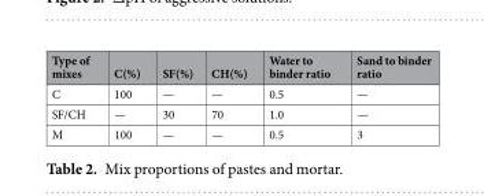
<table><thead><tr><td>Type of mixes</td><td>C(%)</td><td>SF(%)</td><td>CH(%)</td><td>Water to binder ratio</td><td>Sand to binder ratio</td></tr></thead><tbody><tr><td>C</td><td>100</td><td>—</td><td>—</td><td>0.5</td><td>—</td></tr><tr><td>SF/CH</td><td>—</td><td>30</td><td>70</td><td>1.0</td><td>—</td></tr><tr><td>M</td><td>100</td><td>—</td><td>—</td><td>0.5</td><td>3</td></tr></tbody></table>